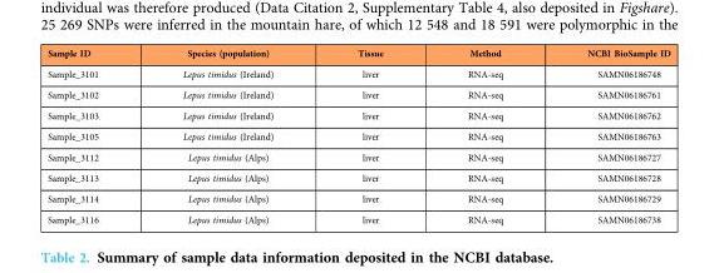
<table><thead><tr><td>Sample ID</td><td>Species (population)</td><td>Tissue</td><td>Method</td><td>NCBI BioSample ID</td></tr></thead><tbody><tr><td>Sample_3101</td><td>Lepus timidus (Ireland)</td><td>liver</td><td>RNA-seq</td><td>SAMN06186748</td></tr><tr><td>Sample_3102</td><td>Lepus timidus (Ireland)</td><td>liver</td><td>RNA-seq</td><td>SAMN06186761</td></tr><tr><td>Sample_3103</td><td>Lepus timidus (Ireland)</td><td>liver</td><td>RNA-seq</td><td>SAMN06186762</td></tr><tr><td>Sample_3105</td><td>Lepus timidus (Ireland)</td><td>liver</td><td>RNA-seq</td><td>SAMN06186763</td></tr><tr><td>Sample_3112</td><td>Lepus timidus (Alps)</td><td>liver</td><td>RNA-seq</td><td>SAMN06186727</td></tr><tr><td>Sample_3113</td><td>Lepus timidus (Alps)</td><td>liver</td><td>RNA-seq</td><td>SAMN06186728</td></tr><tr><td>Sample_3114</td><td>Lepus timidus (Alps)</td><td>liver</td><td>RNA-seq</td><td>SAMN06186729</td></tr><tr><td>Sample_3116</td><td>Lepus timidus (Alps)</td><td>liver</td><td>RNA-seq</td><td>SAMN06186738</td></tr></tbody></table>